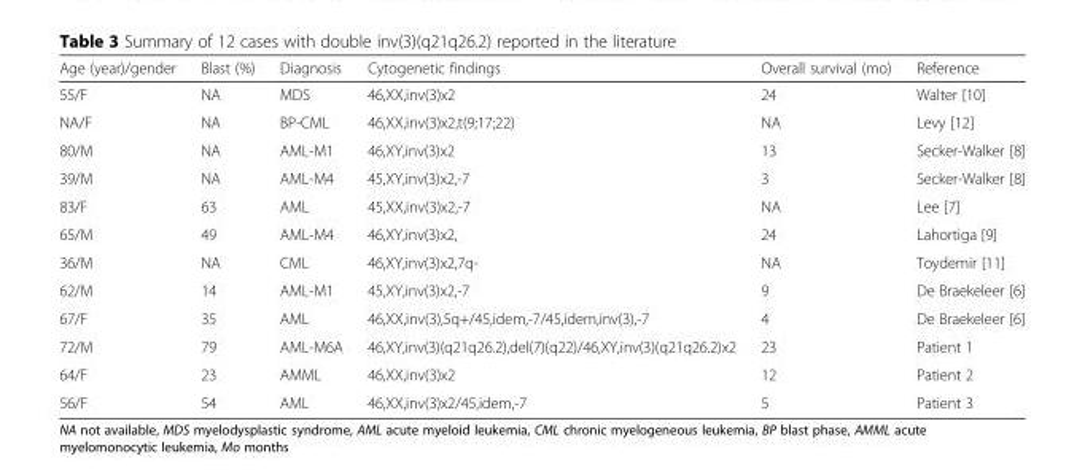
<table><thead><tr><td>Age (year)/gender</td><td>Blast (%)</td><td>Diagnosis</td><td>Cytogenetic findings</td><td>Overall survival (mo)</td><td>Reference</td></tr></thead><tbody><tr><td>55/F</td><td>NA</td><td>MDS</td><td>46,XX,inv(3)x2</td><td>24</td><td>Walter [10]</td></tr><tr><td>NA/F</td><td>NA</td><td>BP-CML</td><td>46,XX,inv(3)x2,t(9;17;22)</td><td>NA</td><td>Levy [12]</td></tr><tr><td>80/M</td><td>NA</td><td>AML-M1</td><td>46,XY,inv(3)x2</td><td>13</td><td>Secker-Walker [8]</td></tr><tr><td>39/M</td><td>NA</td><td>AML-M4</td><td>45,XY,inv(3)x2,-7</td><td>3</td><td>Secker-Walker [8]</td></tr><tr><td>83/F</td><td>63</td><td>AML</td><td>45,XX,inv(3)x2,-7</td><td>NA</td><td>Lee [7]</td></tr><tr><td>65/M</td><td>49</td><td>AML-M4</td><td>46,XY,inv(3)x2,</td><td>24</td><td>Lahortiga [9]</td></tr><tr><td>36/M</td><td>NA</td><td>CML</td><td>46,XY,inv(3)x2,7q-</td><td>NA</td><td>Toydemir [11]</td></tr><tr><td>62/M</td><td>14</td><td>AML-M1</td><td>45,XY,inv(3)x2,-7</td><td>9</td><td>De Braekeleer [6]</td></tr><tr><td>67/F</td><td>35</td><td>AML</td><td>46,XX,inv(3),5q+/45,idem,-7/45,idem,inv(3),-7</td><td>4</td><td>De Braekeleer [6]</td></tr><tr><td>72/M</td><td>79</td><td>AML-M6A</td><td>46,XY,inv(3)(q21q26.2),del(7)(q22)/46,XY,inv(3)(q21q26.2)x2</td><td>23</td><td>Patient 1</td></tr><tr><td>64/F</td><td>23</td><td>AMML</td><td>46,XX,inv(3)x2</td><td>12</td><td>Patient 2</td></tr><tr><td>56/F</td><td>54</td><td>AML</td><td>46,XX,inv(3)x2/45,idem,-7</td><td>5</td><td>Patient 3</td></tr></tbody></table>